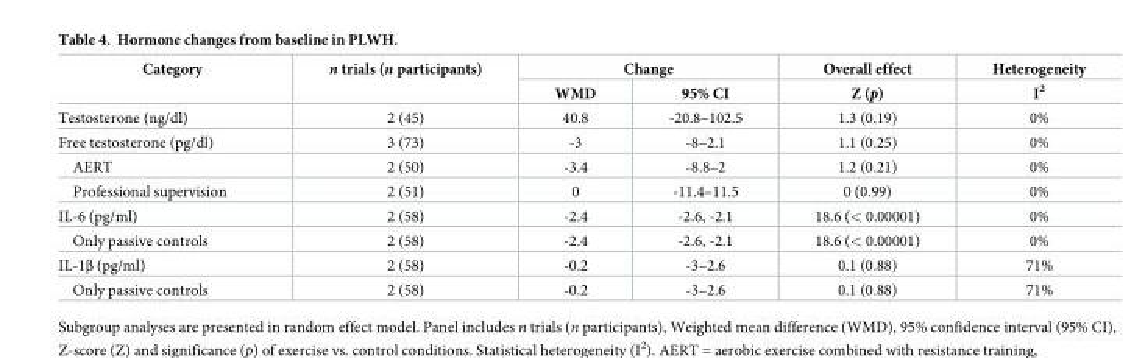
<table><thead><tr><td rowspan="2">Category</td><td rowspan="2">n trials (n participants)</td><td colspan="2">Change</td><td rowspan="2">Overall effect Z (p)</td><td rowspan="2">Heterogeneity I<sup>2</sup></td></tr><tr><td>WMD</td><td>95% CI</td></tr></thead><tbody><tr><td>Testosterone (ng/dl)</td><td>2 (45)</td><td>40.8</td><td>-20.8–102.5</td><td>1.3 (0.19)</td><td>0%</td></tr><tr><td>Free testosterone (pg/dl)</td><td>3 (73)</td><td>-3</td><td>-8–2.1</td><td>1.1 (0.25)</td><td>0%</td></tr><tr><td>AERT</td><td>2 (50)</td><td>-3.4</td><td>-8.8–2</td><td>1.2 (0.21)</td><td>0%</td></tr><tr><td>Professional supervision</td><td>2 (51)</td><td>0</td><td>-11.4–11.5</td><td>0 (0.99)</td><td>0%</td></tr><tr><td>IL-6 (pg/ml)</td><td>2 (58)</td><td>-2.4</td><td>-2.6, -2.1</td><td>18.6 (&lt; 0.00001)</td><td>0%</td></tr><tr><td>Only passive controls</td><td>2 (58)</td><td>-2.4</td><td>-2.6, -2.1</td><td>18.6 (&lt; 0.00001)</td><td>0%</td></tr><tr><td>IL-1β (pg/ml)</td><td>2 (58)</td><td>-0.2</td><td>-3–2.6</td><td>0.1 (0.88)</td><td>71%</td></tr><tr><td>Only passive controls</td><td>2 (58)</td><td>-0.2</td><td>-3–2.6</td><td>0.1 (0.88)</td><td>71%</td></tr></tbody></table>